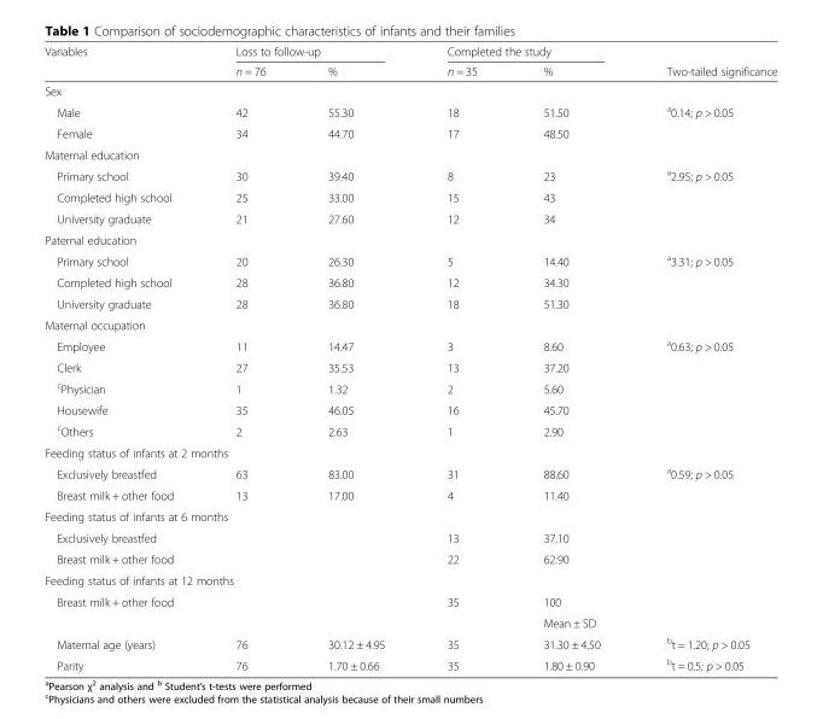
<table><thead><tr><td rowspan="2">Variables</td><td colspan="2">Loss to follow-up</td><td colspan="2">Completed the study</td><td rowspan="2">Two-tailed significance</td></tr><tr><td>n = 76</td><td>%</td><td>n = 35</td><td>%</td></tr></thead><tbody><tr><td colspan="6">Sex</td></tr><tr><td>Male</td><td>42</td><td>55.30</td><td>18</td><td>51.50</td><td rowspan="2"><sup>a</sup>0.14; p &gt; 0.05</td></tr><tr><td>Female</td><td>34</td><td>44.70</td><td>17</td><td>48.50</td></tr><tr><td colspan="6">Maternal education</td></tr><tr><td>Primary school</td><td>30</td><td>39.40</td><td>8</td><td>23</td><td rowspan="3"><sup>a</sup>2.95; p &gt; 0.05</td></tr><tr><td>Completed high school</td><td>25</td><td>33.00</td><td>15</td><td>43</td></tr><tr><td>University graduate</td><td>21</td><td>27.60</td><td>12</td><td>34</td></tr><tr><td colspan="6">Paternal education</td></tr><tr><td>Primary school</td><td>20</td><td>26.30</td><td>5</td><td>14.40</td><td rowspan="3"><sup>a</sup>3.31; p &gt; 0.05</td></tr><tr><td>Completed high school</td><td>28</td><td>36.80</td><td>12</td><td>34.30</td></tr><tr><td>University graduate</td><td>28</td><td>36.80</td><td>18</td><td>51.30</td></tr><tr><td colspan="6">Maternal occupation</td></tr><tr><td>Employee</td><td>11</td><td>14.47</td><td>3</td><td>8.60</td><td rowspan="5"><sup>a</sup>0.63; p &gt; 0.05</td></tr><tr><td>Clerk</td><td>27</td><td>35.53</td><td>13</td><td>37.20</td></tr><tr><td><sup>c</sup>Physician</td><td>1</td><td>1.32</td><td>2</td><td>5.60</td></tr><tr><td>Housewife</td><td>35</td><td>46.05</td><td>16</td><td>45.70</td></tr><tr><td><sup>c</sup>Others</td><td>2</td><td>2.63</td><td>1</td><td>2.90</td></tr><tr><td colspan="6">Feeding status of infants at 2 months</td></tr><tr><td>Exclusively breastfed</td><td>63</td><td>83.00</td><td>31</td><td>88.60</td><td rowspan="2"><sup>a</sup>0.59; p &gt; 0.05</td></tr><tr><td>Breast milk + other food</td><td>13</td><td>17.00</td><td>4</td><td>11.40</td></tr><tr><td colspan="6">Feeding status of infants at 6 months</td></tr><tr><td>Exclusively breastfed</td><td></td><td></td><td>13</td><td>37.10</td><td></td></tr><tr><td>Breast milk + other food</td><td></td><td></td><td>22</td><td>62.90</td><td></td></tr><tr><td colspan="6">Feeding status of infants at 12 months</td></tr><tr><td rowspan="2">Breast milk + other food</td><td></td><td></td><td>35</td><td>100</td><td></td></tr><tr><td></td><td></td><td></td><td>Mean ± SD</td><td></td></tr><tr><td>Maternal age (years)</td><td>76</td><td>30.12 ± 4.95</td><td>35</td><td>31.30 ± 4.50</td><td><sup>b</sup>t = 1.20; p &gt; 0.05</td></tr><tr><td>Parity</td><td>76</td><td>1.70 ± 0.66</td><td>35</td><td>1.80 ± 0.90</td><td><sup>b</sup>t = 0.5; p &gt; 0.05</td></tr></tbody></table>